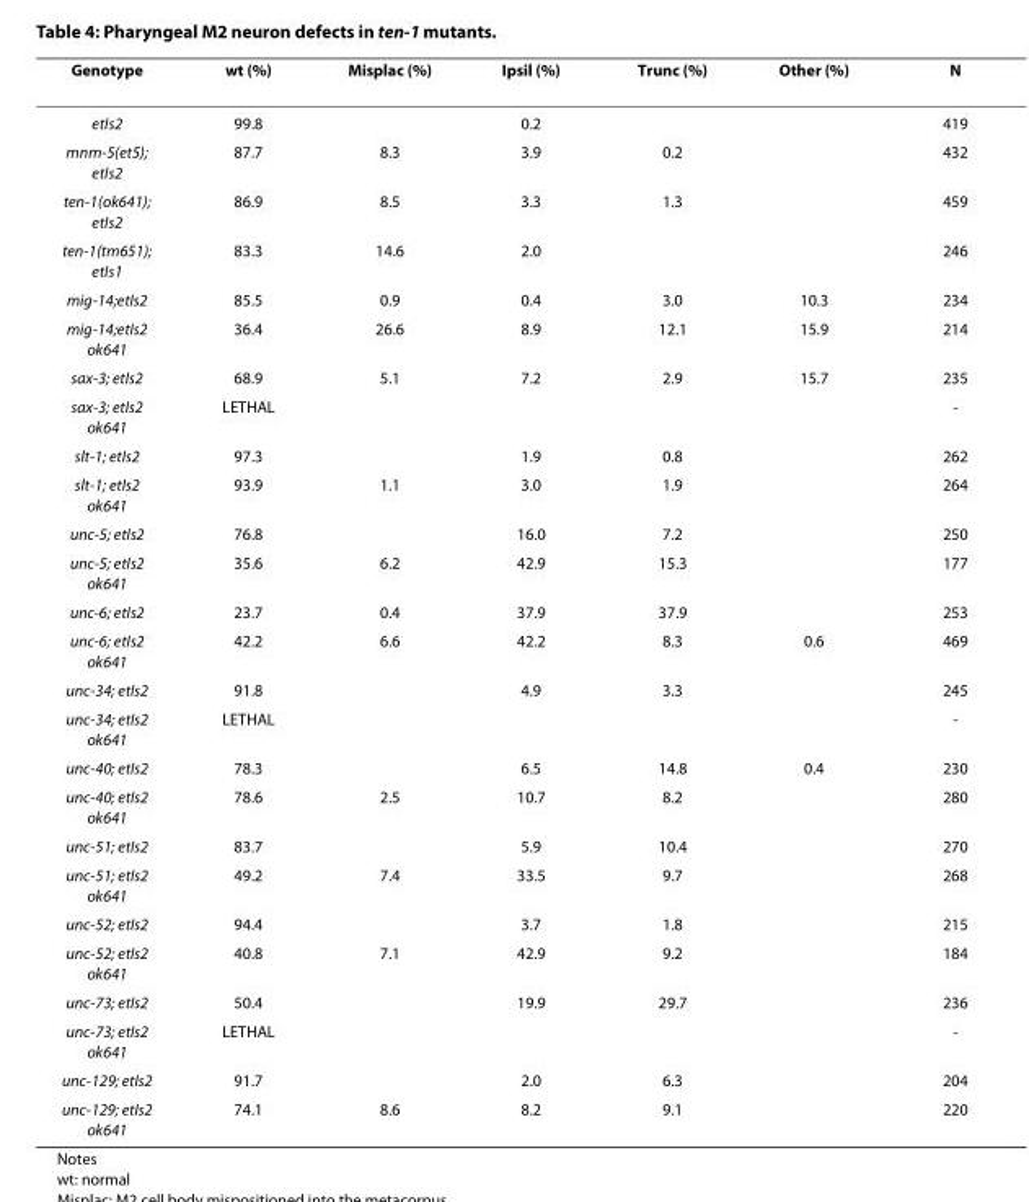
<table><thead><tr><td>Genotype</td><td>wt (%)</td><td>Misplac (%)</td><td>Ipsil (%)</td><td>Trunc (%)</td><td>Other (%)</td><td>N</td></tr></thead><tbody><tr><td>etIs2</td><td>99.8</td><td></td><td>0.2</td><td></td><td></td><td>419</td></tr><tr><td>mnm-5(et5); etIs2</td><td>87.7</td><td>8.3</td><td>3.9</td><td>0.2</td><td></td><td>432</td></tr><tr><td>ten-1(ok641); etIs2</td><td>86.9</td><td>8.5</td><td>3.3</td><td>1.3</td><td></td><td>459</td></tr><tr><td>ten-1(tm651); etIs1</td><td>83.3</td><td>14.6</td><td>2.0</td><td></td><td></td><td>246</td></tr><tr><td>mig-14;etIs2</td><td>85.5</td><td>0.9</td><td>0.4</td><td>3.0</td><td>10.3</td><td>234</td></tr><tr><td>mig-14;etIs2 ok641</td><td>36.4</td><td>26.6</td><td>8.9</td><td>12.1</td><td>15.9</td><td>214</td></tr><tr><td>sax-3; etIs2</td><td>68.9</td><td>5.1</td><td>7.2</td><td>2.9</td><td>15.7</td><td>235</td></tr><tr><td>sax-3; etIs2 ok641</td><td>LETHAL</td><td></td><td></td><td></td><td></td><td>-</td></tr><tr><td>slt-1; etIs2</td><td>97.3</td><td></td><td>1.9</td><td>0.8</td><td></td><td>262</td></tr><tr><td>slt-1; etIs2 ok641</td><td>93.9</td><td>1.1</td><td>3.0</td><td>1.9</td><td></td><td>264</td></tr><tr><td>unc-5; etIs2</td><td>76.8</td><td></td><td>16.0</td><td>7.2</td><td></td><td>250</td></tr><tr><td>unc-5; etIs2 ok641</td><td>35.6</td><td>6.2</td><td>42.9</td><td>15.3</td><td></td><td>177</td></tr><tr><td>unc-6; etIs2</td><td>23.7</td><td>0.4</td><td>37.9</td><td>37.9</td><td></td><td>253</td></tr><tr><td>unc-6; etIs2 ok641</td><td>42.2</td><td>6.6</td><td>42.2</td><td>8.3</td><td>0.6</td><td>469</td></tr><tr><td>unc-34; etIs2</td><td>91.8</td><td></td><td>4.9</td><td>3.3</td><td></td><td>245</td></tr><tr><td>unc-34; etIs2 ok641</td><td>LETHAL</td><td></td><td></td><td></td><td></td><td>-</td></tr><tr><td>unc-40; etIs2</td><td>78.3</td><td></td><td>6.5</td><td>14.8</td><td>0.4</td><td>230</td></tr><tr><td>unc-40; etIs2 ok641</td><td>78.6</td><td>2.5</td><td>10.7</td><td>8.2</td><td></td><td>280</td></tr><tr><td>unc-51; etIs2</td><td>83.7</td><td></td><td>5.9</td><td>10.4</td><td></td><td>270</td></tr><tr><td>unc-51; etIs2 ok641</td><td>49.2</td><td>7.4</td><td>33.5</td><td>9.7</td><td></td><td>268</td></tr><tr><td>unc-52; etIs2</td><td>94.4</td><td></td><td>3.7</td><td>1.8</td><td></td><td>215</td></tr><tr><td>unc-52; etIs2 ok641</td><td>40.8</td><td>7.1</td><td>42.9</td><td>9.2</td><td></td><td>184</td></tr><tr><td>unc-73; etIs2</td><td>50.4</td><td></td><td>19.9</td><td>29.7</td><td></td><td>236</td></tr><tr><td>unc-73; etIs2 ok641</td><td>LETHAL</td><td></td><td></td><td></td><td></td><td>-</td></tr><tr><td>unc-129; etIs2</td><td>91.7</td><td></td><td>2.0</td><td>6.3</td><td></td><td>204</td></tr><tr><td>unc-129; etIs2 ok641</td><td>74.1</td><td>8.6</td><td>8.2</td><td>9.1</td><td></td><td>220</td></tr></tbody></table>